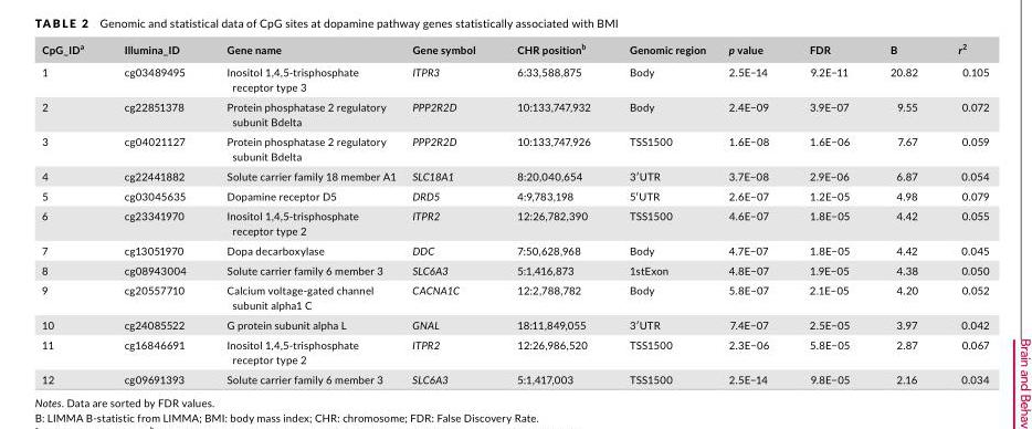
<table><thead><tr><td>CpG_ID<sup>a</sup></td><td>Illumina_ID</td><td>Gene name</td><td>Gene symbol</td><td>CHR position<sup>b</sup></td><td>Genomic region</td><td>p value</td><td>FDR</td><td>B</td><td>r<sup>2</sup></td></tr></thead><tbody><tr><td>1</td><td>cg03489495</td><td>Inositol 1,4,5- trisphosphate receptor type 3</td><td>ITPR3</td><td>6:33,588,875</td><td>Body</td><td>2.5E−14</td><td>9.2E−11</td><td>20.82</td><td>0.105</td></tr><tr><td>2</td><td>cg22851378</td><td>Protein phosphatase 2 regulatory subunit Bdelta</td><td>PPP2R2D</td><td>10:133,747,932</td><td>Body</td><td>2.4E−09</td><td>3.9E−07</td><td>9.55</td><td>0.072</td></tr><tr><td>3</td><td>cg04021127</td><td>Protein phosphatase 2 regulatory subunit Bdelta</td><td>PPP2R2D</td><td>10:133,747,926</td><td>TSS1500</td><td>1.6E−08</td><td>1.6E−06</td><td>7.67</td><td>0.059</td></tr><tr><td>4</td><td>cg22441882</td><td>Solute carrier family 18 member A1</td><td>SLC18A1</td><td>8:20,040,654</td><td>3′UTR</td><td>3.7E−08</td><td>2.9E−06</td><td>6.87</td><td>0.054</td></tr><tr><td>5</td><td>cg03045635</td><td>Dopamine receptor D5</td><td>DRD5</td><td>4:9,783,198</td><td>5′UTR</td><td>2.6E−07</td><td>1.2E−05</td><td>4.98</td><td>0.079</td></tr><tr><td>6</td><td>cg23341970</td><td>Inositol 1,4,5- trisphosphate receptor type 2</td><td>ITPR2</td><td>12:26,782,390</td><td>TSS1500</td><td>4.6E−07</td><td>1.8E−05</td><td>4.42</td><td>0.055</td></tr><tr><td>7</td><td>cg13051970</td><td>Dopa decarboxylase</td><td>DDC</td><td>7:50,628,968</td><td>Body</td><td>4.7E−07</td><td>1.8E−05</td><td>4.42</td><td>0.045</td></tr><tr><td>8</td><td>cg08943004</td><td>Solute carrier family 6 member 3</td><td>SLC6A3</td><td>5:1,416,873</td><td>1stExon</td><td>4.8E−07</td><td>1.9E−05</td><td>4.38</td><td>0.050</td></tr><tr><td>9</td><td>cg20557710</td><td>Calcium voltage- gated channel subunit alpha1 C</td><td>CACNA1C</td><td>12:2,788,782</td><td>Body</td><td>5.8E−07</td><td>2.1E−05</td><td>4.20</td><td>0.052</td></tr><tr><td>10</td><td>cg24085522</td><td>G protein subunit alpha L</td><td>GNAL</td><td>18:11,849,055</td><td>3′UTR</td><td>7.4E−07</td><td>2.5E−05</td><td>3.97</td><td>0.042</td></tr><tr><td>11</td><td>cg16846691</td><td>Inositol 1,4,5- trisphosphate receptor type 2</td><td>ITPR2</td><td>12:26,986,520</td><td>TSS1500</td><td>2.3E−06</td><td>5.8E−05</td><td>2.87</td><td>0.067</td></tr><tr><td>12</td><td>cg09691393</td><td>Solute carrier family 6 member 3</td><td>SLC6A3</td><td>5:1,417,003</td><td>TSS1500</td><td>2.5E−14</td><td>9.8E−05</td><td>2.16</td><td>0.034</td></tr></tbody></table>